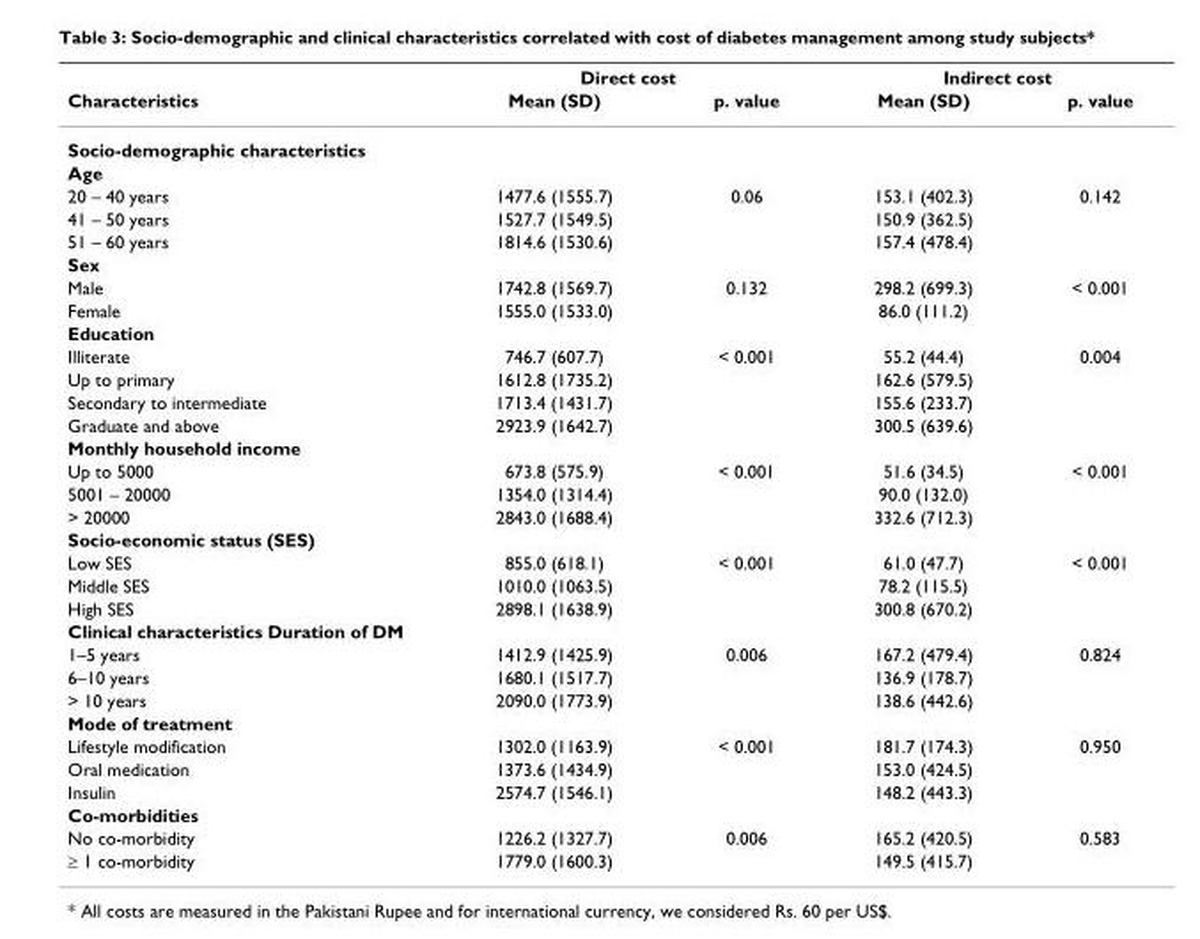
<table><thead><tr><td rowspan="2">Characteristics</td><td colspan="2">Direct cost</td><td colspan="2">Indirect cost</td></tr><tr><td>Mean (SD)</td><td>p. value</td><td>Mean (SD)</td><td>p. value</td></tr></thead><tbody><tr><td colspan="5">Socio-demographic characteristics</td></tr><tr><td colspan="5">Age</td></tr><tr><td>20 – 40 years</td><td>1477.6 (1555.7)</td><td>0.06</td><td>153.1 (402.3)</td><td>0.142</td></tr><tr><td>41 – 50 years</td><td>1527.7 (1549.5)</td><td></td><td>150.9 (362.5)</td><td></td></tr><tr><td>51 – 60 years</td><td>1814.6 (1530.6)</td><td></td><td>157.4 (478.4)</td><td></td></tr><tr><td colspan="5">Sex</td></tr><tr><td>Male</td><td>1742.8 (1569.7)</td><td>0.132</td><td>298.2 (699.3)</td><td>&lt; 0.001</td></tr><tr><td>Female</td><td>1555.0 (1533.0)</td><td></td><td>86.0 (111.2)</td><td></td></tr><tr><td colspan="5">Education</td></tr><tr><td>Illiterate</td><td>746.7 (607.7)</td><td>&lt; 0.001</td><td>55.2 (44.4)</td><td>0.004</td></tr><tr><td>Up to primary</td><td>1612.8 (1735.2)</td><td></td><td>162.6 (579.5)</td><td></td></tr><tr><td>Secondary to intermediate</td><td>1713.4 (1431.7)</td><td></td><td>155.6 (233.7)</td><td></td></tr><tr><td>Graduate and above</td><td>2923.9 (1642.7)</td><td></td><td>300.5 (639.6)</td><td></td></tr><tr><td colspan="5">Monthly household income</td></tr><tr><td>Up to 5000</td><td>673.8 (575.9)</td><td>&lt; 0.001</td><td>51.6 (34.5)</td><td>&lt; 0.001</td></tr><tr><td>5001 – 20000</td><td>1354.0 (1314.4)</td><td></td><td>90.0 (132.0)</td><td></td></tr><tr><td>&gt; 20000</td><td>2843.0 (1688.4)</td><td></td><td>332.6 (712.3)</td><td></td></tr><tr><td colspan="5">Socio-economic status (SES)</td></tr><tr><td>Low SES</td><td>855.0 (618.1)</td><td>&lt; 0.001</td><td>61.0 (47.7)</td><td>&lt; 0.001</td></tr><tr><td>Middle SES</td><td>1010.0 (1063.5)</td><td></td><td>78.2 (115.5)</td><td></td></tr><tr><td>High SES</td><td>2898.1 (1638.9)</td><td></td><td>300.8 (670.2)</td><td></td></tr><tr><td colspan="5">Clinical characteristics Duration of DM</td></tr><tr><td>1–5 years</td><td>1412.9 (1425.9)</td><td>0.006</td><td>167.2 (479.4)</td><td>0.824</td></tr><tr><td>6–10 years</td><td>1680.1 (1517.7)</td><td></td><td>136.9 (178.7)</td><td></td></tr><tr><td>&gt; 10 years</td><td>2090.0 (1773.9)</td><td></td><td>138.6 (442.6)</td><td></td></tr><tr><td colspan="5">Mode of treatment</td></tr><tr><td>Lifestyle modification</td><td>1302.0 (1163.9)</td><td>&lt; 0.001</td><td>181.7 (174.3)</td><td>0.950</td></tr><tr><td>Oral medication</td><td>1373.6 (1434.9)</td><td></td><td>153.0 (424.5)</td><td></td></tr><tr><td>Insulin</td><td>2574.7 (1546.1)</td><td></td><td>148.2 (443.3)</td><td></td></tr><tr><td colspan="5">Co-morbidities</td></tr><tr><td>No co-morbidity</td><td>1226.2 (1327.7)</td><td>0.006</td><td>165.2 (420.5)</td><td>0.583</td></tr><tr><td>≥ 1 co-morbidity</td><td>1779.0 (1600.3)</td><td></td><td>149.5 (415.7)</td><td></td></tr></tbody></table>